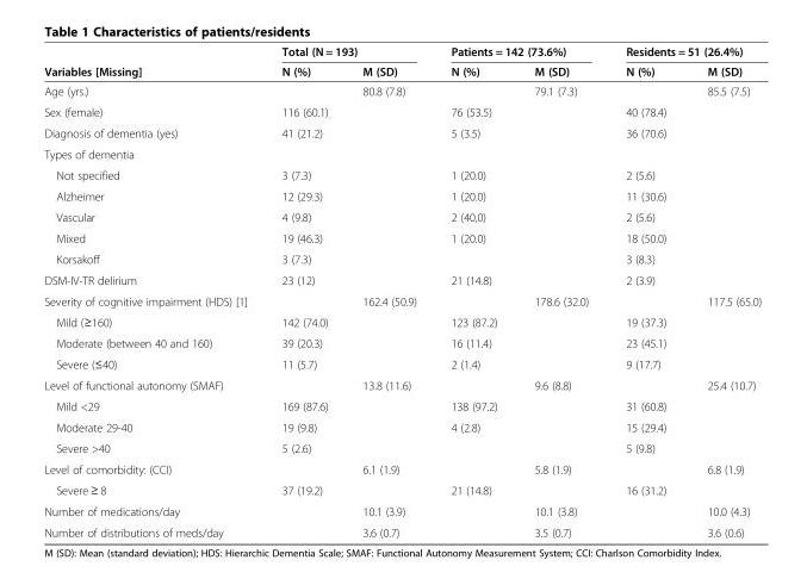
<table><thead><tr><td rowspan="2">Variables [Missing]</td><td colspan="2">Total (N = 193)</td><td colspan="2">Patients = 142 (73.6%)</td><td colspan="2">Residents = 51 (26.4%)</td></tr><tr><td>N (%)</td><td>M (SD)</td><td>N (%)</td><td>M (SD)</td><td>N (%)</td><td>M (SD)</td></tr></thead><tbody><tr><td>Age (yrs.)</td><td></td><td>80.8 (7.8)</td><td></td><td>79.1 (7.3)</td><td></td><td>85.5 (7.5)</td></tr><tr><td>Sex (female)</td><td>116 (60.1)</td><td></td><td>76 (53.5)</td><td></td><td>40 (78.4)</td><td></td></tr><tr><td>Diagnosis of dementia (yes)</td><td>41 (21.2)</td><td></td><td>5 (3.5)</td><td></td><td>36 (70.6)</td><td></td></tr><tr><td colspan="7">Types of dementia</td></tr><tr><td>Not specified</td><td>3 (7.3)</td><td></td><td>1 (20.0)</td><td></td><td>2 (5.6)</td><td></td></tr><tr><td>Alzheimer</td><td>12 (29.3)</td><td></td><td>1 (20.0)</td><td></td><td>11 (30.6)</td><td></td></tr><tr><td>Vascular</td><td>4 (9.8)</td><td></td><td>2 (40,0)</td><td></td><td>2 (5.6)</td><td></td></tr><tr><td>Mixed</td><td>19 (46.3)</td><td></td><td>1 (20.0)</td><td></td><td>18 (50.0)</td><td></td></tr><tr><td>Korsakoff</td><td>3 (7.3)</td><td></td><td></td><td></td><td>3 (8.3)</td><td></td></tr><tr><td>DSM-IV-TR delirium</td><td>23 (12)</td><td></td><td>21 (14.8)</td><td></td><td>2 (3.9)</td><td></td></tr><tr><td>Severity of cognitive impairment (HDS) [1]</td><td></td><td>162.4 (50.9)</td><td></td><td>178.6 (32.0)</td><td></td><td>117.5 (65.0)</td></tr><tr><td>Mild (≥160)</td><td>142 (74.0)</td><td></td><td>123 (87.2)</td><td></td><td>19 (37.3)</td><td></td></tr><tr><td>Moderate (between 40 and 160)</td><td>39 (20.3)</td><td></td><td>16 (11.4)</td><td></td><td>23 (45.1)</td><td></td></tr><tr><td>Severe (≤40)</td><td>11 (5.7)</td><td></td><td>2 (1.4)</td><td></td><td>9 (17.7)</td><td></td></tr><tr><td>Level of functional autonomy (SMAF)</td><td></td><td>13.8 (11.6)</td><td></td><td>9.6 (8.8)</td><td></td><td>25.4 (10.7)</td></tr><tr><td>Mild &lt;29</td><td>169 (87.6)</td><td></td><td>138 (97.2)</td><td></td><td>31 (60.8)</td><td></td></tr><tr><td>Moderate 29-40</td><td>19 (9.8)</td><td></td><td>4 (2.8)</td><td></td><td>15 (29.4)</td><td></td></tr><tr><td>Severe &gt;40</td><td>5 (2.6)</td><td></td><td></td><td></td><td>5 (9.8)</td><td></td></tr><tr><td>Level of comorbidity: (CCI)</td><td></td><td>6.1 (1.9)</td><td></td><td>5.8 (1.9)</td><td></td><td>6.8 (1.9)</td></tr><tr><td>Severe ≥ 8</td><td>37 (19.2)</td><td></td><td>21 (14.8)</td><td></td><td>16 (31.2)</td><td></td></tr><tr><td>Number of medications/day</td><td></td><td>10.1 (3.9)</td><td></td><td>10.1 (3.8)</td><td></td><td>10.0 (4.3)</td></tr><tr><td>Number of distributions of meds/day</td><td></td><td>3.6 (0.7)</td><td></td><td>3.5 (0.7)</td><td></td><td>3.6 (0.6)</td></tr></tbody></table>